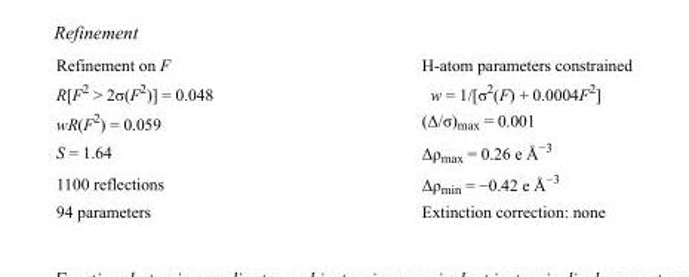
<table><tbody><tr><td>Refinement on F</td><td>H-atom parameters constrained</td></tr><tr><td>R[F<sup>2</sup> &gt; 2σ(F<sup>2</sup>)] = 0.048</td><td>w = 1/[σ<sup>2</sup>(F) + 0.0004F<sup>2</sup>]</td></tr><tr><td>wR(F<sup>2</sup>) = 0.059</td><td>(Δ/σ)<sub>max</sub> = 0.001</td></tr><tr><td>S = 1.64</td><td>Δρ<sub>max</sub> = 0.26 e Å<sup>−3</sup></td></tr><tr><td>1100 reflections</td><td>Δρ<sub>min</sub> = −0.42 e Å<sup>−3</sup></td></tr><tr><td>94 parameters</td><td>Extinction correction: none</td></tr></tbody></table>